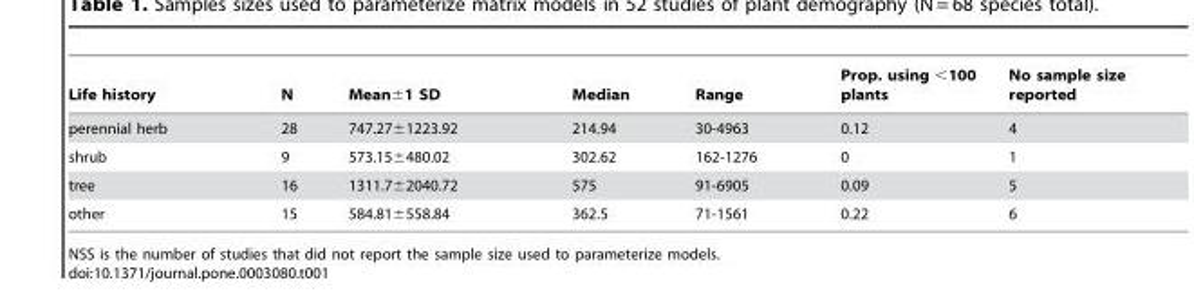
<table><thead><tr><td>Life history</td><td>N</td><td>Mean±1 SD</td><td>Median</td><td>Range</td><td>Prop. using &lt;100 plants</td><td>No sample size reported</td></tr></thead><tbody><tr><td>perennial herb</td><td>28</td><td>747.27±1223.92</td><td>214.94</td><td>30-4963</td><td>0.12</td><td>4</td></tr><tr><td>shrub</td><td>9</td><td>573.15±480.02</td><td>302.62</td><td>162-1276</td><td>0</td><td>1</td></tr><tr><td>tree</td><td>16</td><td>1311.7±2040.72</td><td>575</td><td>91-6905</td><td>0.09</td><td>5</td></tr><tr><td>other</td><td>15</td><td>584.81±558.84</td><td>362.5</td><td>71-1561</td><td>0.22</td><td>6</td></tr></tbody></table>